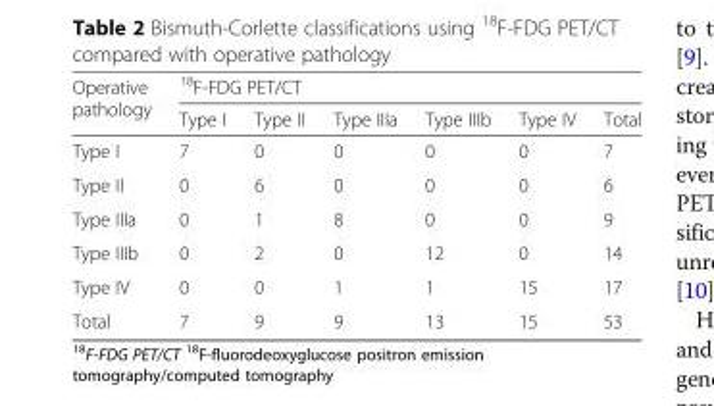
<table><thead><tr><td rowspan="2">Operative pathology</td><td colspan="6"><sup>18</sup>F-FDG PET/CT</td></tr><tr><td>Type I</td><td>Type II</td><td>Type IIIa</td><td>Type IIIb</td><td>Type IV</td><td>Total</td></tr></thead><tbody><tr><td>Type I</td><td>7</td><td>0</td><td>0</td><td>0</td><td>0</td><td>7</td></tr><tr><td>Type II</td><td>0</td><td>6</td><td>0</td><td>0</td><td>0</td><td>6</td></tr><tr><td>Type IIIa</td><td>0</td><td>1</td><td>8</td><td>0</td><td>0</td><td>9</td></tr><tr><td>Type IIIb</td><td>0</td><td>2</td><td>0</td><td>12</td><td>0</td><td>14</td></tr><tr><td>Type IV</td><td>0</td><td>0</td><td>1</td><td>1</td><td>15</td><td>17</td></tr><tr><td>Total</td><td>7</td><td>9</td><td>9</td><td>13</td><td>15</td><td>53</td></tr></tbody></table>